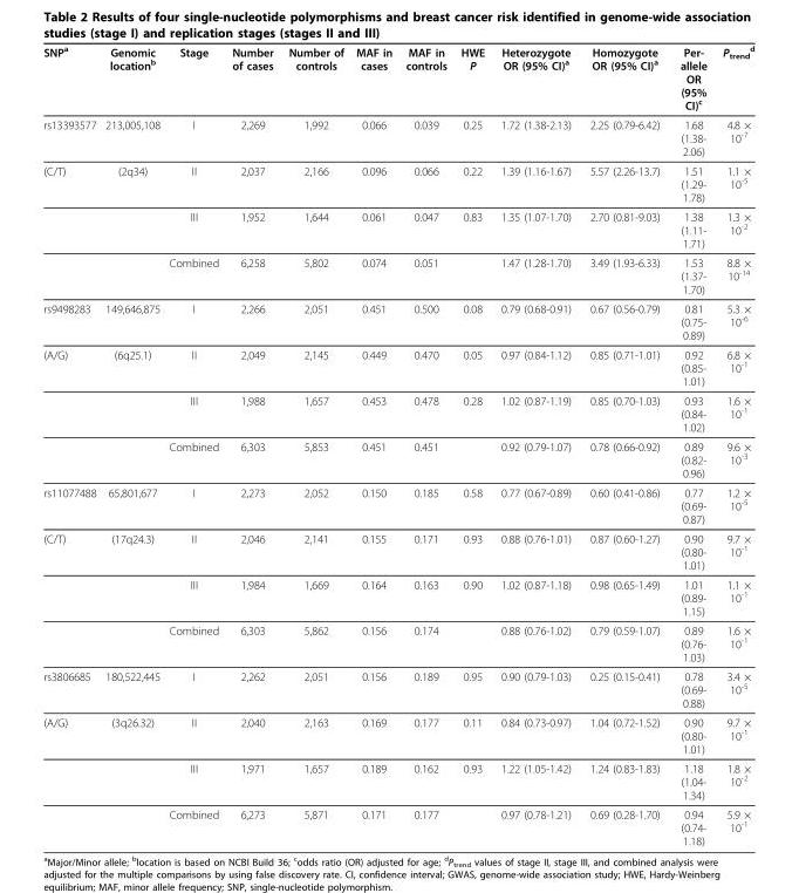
<table><thead><tr><td>SNP<sup>a</sup></td><td>Genomic location<sup>b</sup></td><td>Stage</td><td>Number of cases</td><td>Number of controls</td><td>MAF in cases</td><td>MAF in controls</td><td>HWE P</td><td>Heterozygote OR (95% CI)<sup>a</sup></td><td>Homozygote OR (95% CI)<sup>a</sup></td><td>Per- allele OR (95% CI)<sup>c</sup></td><td>P<sub>trend</sub> <sup>d</sup></td></tr></thead><tbody><tr><td>rs13393577</td><td>213,005,108</td><td>I</td><td>2,269</td><td>1,992</td><td>0.066</td><td>0.039</td><td>0.25</td><td>1.72 (1.38-2.13)</td><td>2.25 (0.79-6.42)</td><td>1.68 (1.38- 2.06)</td><td>4.8 × 10<sup>-7</sup></td></tr><tr><td rowspan="3">(C/T)</td><td>(2q34)</td><td>II</td><td>2,037</td><td>2,166</td><td>0.096</td><td>0.066</td><td>0.22</td><td>1.39 (1.16-1.67)</td><td>5.57 (2.26-13.7)</td><td>1.51 (1.29- 1.78)</td><td>1.1 × 10<sup>-5</sup></td></tr><tr><td></td><td>III</td><td>1,952</td><td>1,644</td><td>0.061</td><td>0.047</td><td>0.83</td><td>1.35 (1.07-1.70)</td><td>2.70 (0.81-9.03)</td><td>1.38 (1.11- 1.71)</td><td>1.3 × 10<sup>-2</sup></td></tr><tr><td></td><td>Combined</td><td>6,258</td><td>5,802</td><td>0.074</td><td>0.051</td><td></td><td>1.47 (1.28-1.70)</td><td>3.49 (1.93-6.33)</td><td>1.53 (1.37- 1.70)</td><td>8.8 × 10<sup>-14</sup></td></tr><tr><td>rs9498283</td><td>149,646,875</td><td>I</td><td>2,266</td><td>2,051</td><td>0.451</td><td>0.500</td><td>0.08</td><td>0.79 (0.68-0.91)</td><td>0.67 (0.56-0.79)</td><td>0.81 (0.75- 0.89)</td><td>5.3 × 10<sup>-6</sup></td></tr><tr><td rowspan="3">(A/G)</td><td>(6q25.1)</td><td>II</td><td>2,049</td><td>2,145</td><td>0.449</td><td>0.470</td><td>0.05</td><td>0.97 (0.84-1.12)</td><td>0.85 (0.71-1.01)</td><td>0.92 (0.85- 1.01)</td><td>6.8 × 10<sup>-1</sup></td></tr><tr><td></td><td>III</td><td>1,988</td><td>1,657</td><td>0.453</td><td>0.478</td><td>0.28</td><td>1.02 (0.87-1.19)</td><td>0.85 (0.70-1.03)</td><td>0.93 (0.84- 1.02)</td><td>1.6 × 10<sup>-1</sup></td></tr><tr><td></td><td>Combined</td><td>6,303</td><td>5,853</td><td>0.451</td><td>0.451</td><td></td><td>0.92 (0.79-1.07)</td><td>0.78 (0.66-0.92)</td><td>0.89 (0.82- 0.96)</td><td>9.6 × 10<sup>-3</sup></td></tr><tr><td>rs11077488</td><td>65,801,677</td><td>I</td><td>2,273</td><td>2,052</td><td>0.150</td><td>0.185</td><td>0.58</td><td>0.77 (0.67-0.89)</td><td>0.60 (0.41-0.86)</td><td>0.77 (0.69- 0.87)</td><td>1.2 × 10<sup>-5</sup></td></tr><tr><td rowspan="3">(C/T)</td><td>(17q24.3)</td><td>II</td><td>2,046</td><td>2,141</td><td>0.155</td><td>0.171</td><td>0.93</td><td>0.88 (0.76-1.01)</td><td>0.87 (0.60-1.27)</td><td>0.90 (0.80- 1.01)</td><td>9.7 × 10<sup>-1</sup></td></tr><tr><td></td><td>III</td><td>1,984</td><td>1,669</td><td>0.164</td><td>0.163</td><td>0.90</td><td>1.02 (0.87-1.18)</td><td>0.98 (0.65-1.49)</td><td>1.01 (0.89- 1.15)</td><td>1.1 × 10<sup>-1</sup></td></tr><tr><td></td><td>Combined</td><td>6,303</td><td>5,862</td><td>0.156</td><td>0.174</td><td></td><td>0.88 (0.76-1.02)</td><td>0.79 (0.59-1.07)</td><td>0.89 (0.76- 1.03)</td><td>1.6 × 10<sup>-1</sup></td></tr><tr><td>rs3806685</td><td>180,522,445</td><td>I</td><td>2,262</td><td>2,051</td><td>0.156</td><td>0.189</td><td>0.95</td><td>0.90 (0.79-1.03)</td><td>0.25 (0.15-0.41)</td><td>0.78 (0.69- 0.88)</td><td>3.4 × 10<sup>-5</sup></td></tr><tr><td rowspan="3">(A/G)</td><td>(3q26.32)</td><td>II</td><td>2,040</td><td>2,163</td><td>0.169</td><td>0.177</td><td>0.11</td><td>0.84 (0.73-0.97)</td><td>1.04 (0.72-1.52)</td><td>0.90 (0.80- 1.01)</td><td>9.7 × 10<sup>-1</sup></td></tr><tr><td></td><td>III</td><td>1,971</td><td>1,657</td><td>0.189</td><td>0.162</td><td>0.93</td><td>1.22 (1.05-1.42)</td><td>1.24 (0.83-1.83)</td><td>1.18 (1.04- 1.34)</td><td>1.8 × 10<sup>-2</sup></td></tr><tr><td></td><td>Combined</td><td>6,273</td><td>5,871</td><td>0.171</td><td>0.177</td><td></td><td>0.97 (0.78-1.21)</td><td>0.69 (0.28-1.70)</td><td>0.94 (0.74- 1.18)</td><td>5.9 × 10<sup>-1</sup></td></tr></tbody></table>